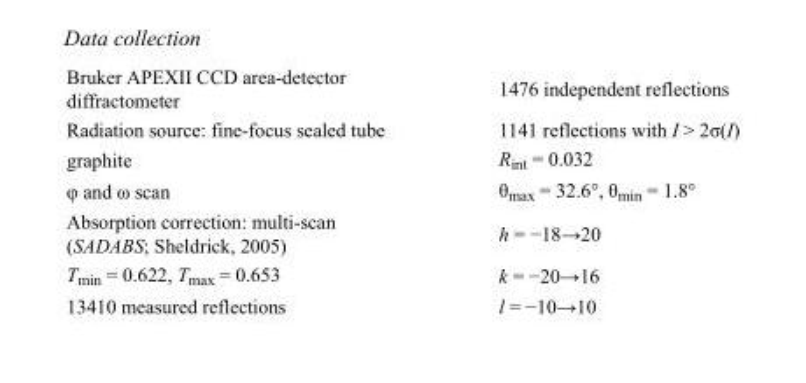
<table><tbody><tr><td>Bruker APEXII CCD area-detector diffractometer</td><td>1476 independent reflections</td></tr><tr><td>Radiation source: fine-focus sealed tube</td><td>1141 reflections with I &gt; 2σ(I)</td></tr><tr><td>graphite</td><td>R<sub>int</sub> = 0.032</td></tr><tr><td>φ and ω scan</td><td>θ<sub>max</sub> = 32.6°, θ<sub>min</sub> = 1.8°</td></tr><tr><td>Absorption correction: multi-scan (SADABS; Sheldrick, 2005)</td><td>h = −18→20</td></tr><tr><td>T<sub>min</sub> = 0.622, T<sub>max</sub> = 0.653</td><td>k = −20→16</td></tr><tr><td>13410 measured reflections</td><td>l = −10→10</td></tr></tbody></table>